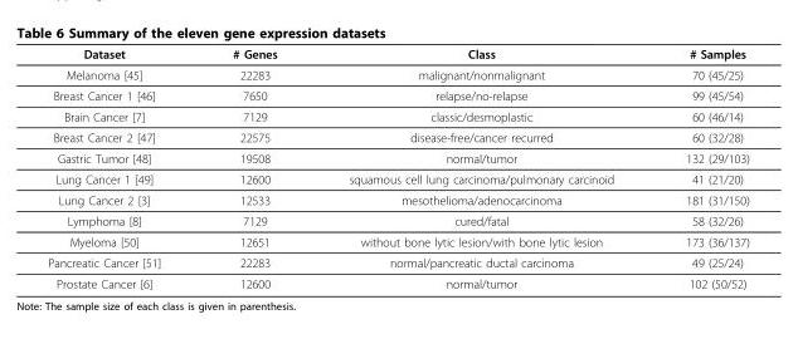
<table><thead><tr><td>Dataset</td><td># Genes</td><td>Class</td><td># Samples</td></tr></thead><tbody><tr><td>Melanoma [45]</td><td>22283</td><td>malignant/nonmalignant</td><td>70 (45/25)</td></tr><tr><td>Breast Cancer 1 [46]</td><td>7650</td><td>relapse/no-relapse</td><td>99 (45/54)</td></tr><tr><td>Brain Cancer [7]</td><td>7129</td><td>classic/desmoplastic</td><td>60 (46/14)</td></tr><tr><td>Breast Cancer 2 [47]</td><td>22575</td><td>disease-free/cancer recurred</td><td>60 (32/28)</td></tr><tr><td>Gastric Tumor [48]</td><td>19508</td><td>normal/tumor</td><td>132 (29/103)</td></tr><tr><td>Lung Cancer 1 [49]</td><td>12600</td><td>squamous cell lung carcinoma/pulmonary carcinoid</td><td>41 (21/20)</td></tr><tr><td>Lung Cancer 2 [3]</td><td>12533</td><td>mesothelioma/adenocarcinoma</td><td>181 (31/150)</td></tr><tr><td>Lymphoma [8]</td><td>7129</td><td>cured/fatal</td><td>58 (32/26)</td></tr><tr><td>Myeloma [50]</td><td>12651</td><td>without bone lytic lesion/with bone lytic lesion</td><td>173 (36/137)</td></tr><tr><td>Pancreatic Cancer [51]</td><td>22283</td><td>normal/pancreatic ductal carcinoma</td><td>49 (25/24)</td></tr><tr><td>Prostate Cancer [6]</td><td>12600</td><td>normal/tumor</td><td>102 (50/52)</td></tr></tbody></table>